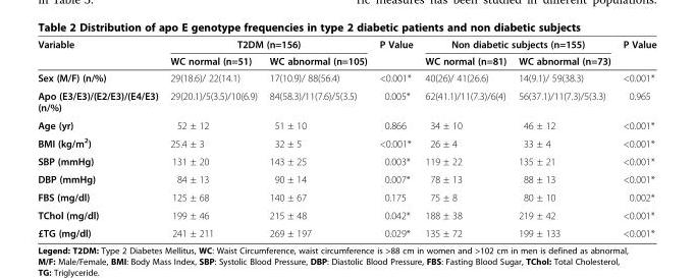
<table><thead><tr><td rowspan="2">Variable</td><td colspan="2">T2DM (n=156)</td><td rowspan="2">P Value</td><td colspan="2">Non diabetic subjects (n=155)</td><td rowspan="2">P Value</td></tr><tr><td>WC normal (n=51)</td><td>WC abnormal (n=105)</td><td>WC normal (n=81)</td><td>WC abnormal (n=73)</td></tr></thead><tbody><tr><td>Sex (M/F) (n/%)</td><td>29(18.6)/ 22(14.1)</td><td>17(10.9)/ 88(56.4)</td><td>&lt;0.001*</td><td>40(26)/ 41(26.6)</td><td>14(9.1)/ 59(38.3)</td><td>&lt;0.001*</td></tr><tr><td>Apo (E3/E3)/(E2/E3)/(E4/E3) (n/%)</td><td>29(20.1)/5(3.5)/10(6.9)</td><td>84(58.3)/11(7.6)/5(3.5)</td><td>0.005*</td><td>62(41.1)/11(7.3)/6(4)</td><td>56(37.1)/11(7.3)/5(3.3)</td><td>0.965</td></tr><tr><td>Age (yr)</td><td>52 ± 12</td><td>51 ± 10</td><td>0.866</td><td>34 ± 10</td><td>46 ± 12</td><td>&lt;0.001*</td></tr><tr><td>BMI (kg/m<sup>2</sup>)</td><td>25.4 ± 3</td><td>32 ± 5</td><td>&lt;0.001*</td><td>26 ± 4</td><td>33 ± 4</td><td>&lt;0.001*</td></tr><tr><td>SBP (mmHg)</td><td>131 ± 20</td><td>143 ± 25</td><td>0.003*</td><td>119 ± 22</td><td>135 ± 21</td><td>&lt;0.001*</td></tr><tr><td>DBP (mmHg)</td><td>84 ± 13</td><td>90 ± 14</td><td>0.007*</td><td>78 ± 13</td><td>88 ± 13</td><td>&lt;0.001*</td></tr><tr><td>FBS (mg/dl)</td><td>125 ± 68</td><td>140 ± 67</td><td>0.175</td><td>75 ± 8</td><td>80 ± 10</td><td>0.002*</td></tr><tr><td>TChol (mg/dl)</td><td>199 ± 46</td><td>215 ± 48</td><td>0.042*</td><td>188 ± 38</td><td>219 ± 42</td><td>&lt;0.001*</td></tr><tr><td>£TG (mg/dl)</td><td>241 ± 211</td><td>269 ± 197</td><td>0.029*</td><td>135 ± 72</td><td>199 ± 133</td><td>&lt;0.001*</td></tr></tbody></table>